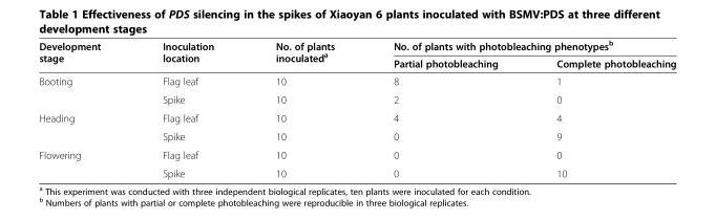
<table><thead><tr><td rowspan="2">Development stage</td><td rowspan="2">Inoculation location</td><td rowspan="2">No. of plants inoculated<sup>a</sup></td><td colspan="2">No. of plants with photobleaching phenotypes<sup>b</sup></td></tr><tr><td>Partial photobleaching</td><td>Complete photobleaching</td></tr></thead><tbody><tr><td rowspan="2">Booting</td><td>Flag leaf</td><td>10</td><td>8</td><td>1</td></tr><tr><td>Spike</td><td>10</td><td>2</td><td>0</td></tr><tr><td rowspan="2">Heading</td><td>Flag leaf</td><td>10</td><td>4</td><td>4</td></tr><tr><td>Spike</td><td>10</td><td>0</td><td>9</td></tr><tr><td rowspan="2">Flowering</td><td>Flag leaf</td><td>10</td><td>0</td><td>0</td></tr><tr><td>Spike</td><td>10</td><td>0</td><td>10</td></tr></tbody></table>